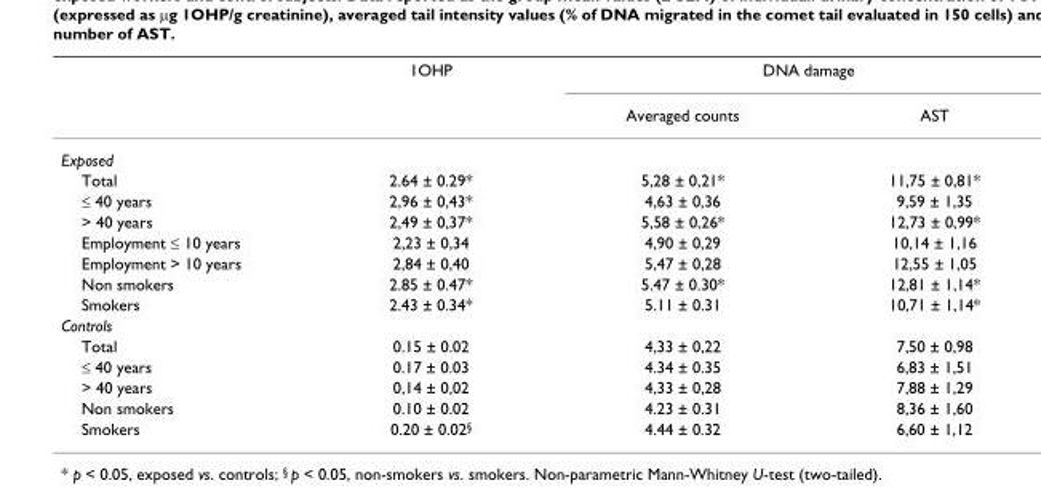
<table><thead><tr><td rowspan="2"></td><td rowspan="2">1OHP</td><td colspan="2">DNA damage</td></tr><tr><td>Averaged counts</td><td>AST</td></tr></thead><tbody><tr><td colspan="4">Exposed</td></tr><tr><td>Total</td><td>2.64 ± 0.29*</td><td>5,28 ± 0,21*</td><td>11,75 ± 0,81*</td></tr><tr><td>≤ 40 years</td><td>2,96 ± 0,43*</td><td>4,63 ± 0,36</td><td>9,59 ± 1,35</td></tr><tr><td>&gt; 40 years</td><td>2,49 ± 0,37*</td><td>5,58 ± 0,26*</td><td>12,73 ± 0,99*</td></tr><tr><td>Employment ≤ 10 years</td><td>2,23 ± 0,34</td><td>4,90 ± 0,29</td><td>10,14 ± 1,16</td></tr><tr><td>Employment &gt; 10 years</td><td>2,84 ± 0,40</td><td>5,47 ± 0,28</td><td>12,55 ± 1,05</td></tr><tr><td>Non smokers</td><td>2.85 ± 0.47*</td><td>5.47 ± 0.30*</td><td>12,81 ± 1,14*</td></tr><tr><td>Smokers</td><td>2.43 ± 0.34*</td><td>5.11 ± 0.31</td><td>10,71 ± 1,14*</td></tr><tr><td colspan="4">Controls</td></tr><tr><td>Total</td><td>0.15 ± 0.02</td><td>4,33 ± 0,22</td><td>7,50 ± 0,98</td></tr><tr><td>≤ 40 years</td><td>0.17 ± 0.03</td><td>4.34 ± 0.35</td><td>6,83 ± 1,51</td></tr><tr><td>&gt; 40 years</td><td>0,14 ± 0,02</td><td>4,33 ± 0,28</td><td>7,88 ± 1,29</td></tr><tr><td>Non smokers</td><td>0.10 ± 0.02</td><td>4.23 ± 0.31</td><td>8,36 ± 1,60</td></tr><tr><td>Smokers</td><td>0.20 ± 0.02<sup>§</sup></td><td>4.44 ± 0.32</td><td>6,60 ± 1,12</td></tr></tbody></table>